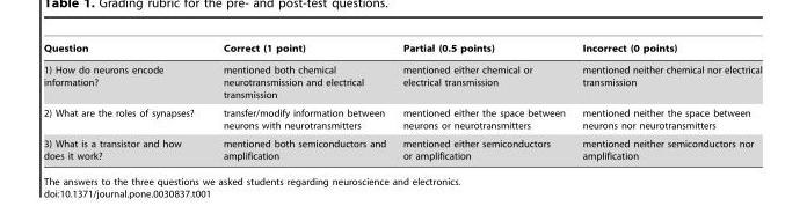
<table><thead><tr><td>Question</td><td>Correct (1 point)</td><td>Partial (0.5 points)</td><td>Incorrect (0 points)</td></tr></thead><tbody><tr><td>1) How do neurons encode information?</td><td>mentioned both chemical neurotransmission and electrical transmission</td><td>mentioned either chemical or electrical transmission</td><td>mentioned neither chemical nor electrical transmission</td></tr><tr><td>2) What are the roles of synapses?</td><td>transfer/modify information between neurons with neurotransmitters</td><td>mentioned either the space between neurons or neurotransmitters</td><td>mentioned neither the space between neurons nor neurotransmitters</td></tr><tr><td>3) What is a transistor and how does it work?</td><td>mentioned both semiconductors and amplification</td><td>mentioned either semiconductors or amplification</td><td>mentioned neither semiconductors nor amplification</td></tr></tbody></table>